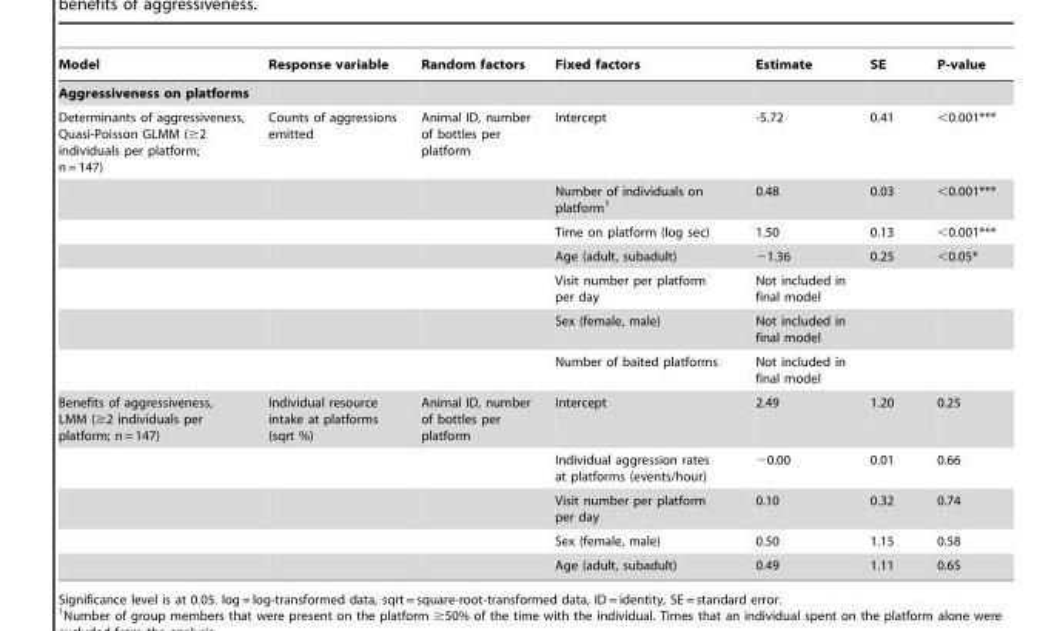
<table><thead><tr><td>Model</td><td>Response variable</td><td>Random factors</td><td>Fixed factors</td><td>Estimate</td><td>SE</td><td>P-value</td></tr></thead><tbody><tr><td colspan="7">Aggressiveness on platforms</td></tr><tr><td rowspan="7">Determinants of aggressiveness, Quasi-Poisson GLMM (≥2 individuals per platform; n = 147)</td><td>Counts of aggressions emitted</td><td>Animal ID, number of bottles per platform</td><td>Intercept</td><td>-5.72</td><td>0.41</td><td>&lt;0.001***</td></tr><tr><td></td><td></td><td>Number of individuals on platform<sup>1</sup></td><td>0.48</td><td>0.03</td><td>&lt;0.001***</td></tr><tr><td></td><td></td><td>Time on platform (log sec)</td><td>1.50</td><td>0.13</td><td>&lt;0.001***</td></tr><tr><td></td><td></td><td>Age (adult, subadult)</td><td>−1.36</td><td>0.25</td><td>&lt;0.05*</td></tr><tr><td></td><td></td><td>Visit number per platform per day</td><td>Not included in final model</td><td></td><td></td></tr><tr><td></td><td></td><td>Sex (female, male)</td><td>Not included in final model</td><td></td><td></td></tr><tr><td></td><td></td><td>Number of baited platforms</td><td>Not included in final model</td><td></td><td></td></tr><tr><td rowspan="5">Benefits of aggressiveness, LMM (≥2 individuals per platform; n = 147)</td><td>Individual resource intake at platforms (sqrt %)</td><td>Animal ID, number of bottles per platform</td><td>Intercept</td><td>2.49</td><td>1.20</td><td>0.25</td></tr><tr><td></td><td></td><td>Individual aggression rates at platforms (events/hour)</td><td>−0.00</td><td>0.01</td><td>0.66</td></tr><tr><td></td><td></td><td>Visit number per platform per day</td><td>0.10</td><td>0.32</td><td>0.74</td></tr><tr><td></td><td></td><td>Sex (female, male)</td><td>0.50</td><td>1.15</td><td>0.58</td></tr><tr><td></td><td></td><td>Age (adult, subadult)</td><td>0.49</td><td>1.11</td><td>0.65</td></tr></tbody></table>